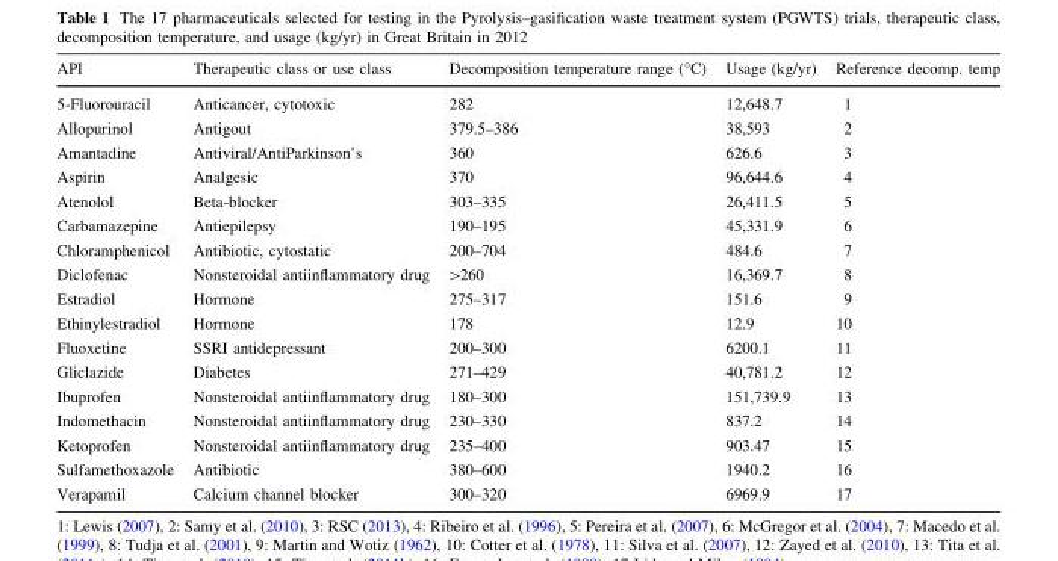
<table><thead><tr><td>API</td><td>Therapeutic class or use class</td><td>Decomposition temperature range (°C)</td><td>Usage (kg/yr)</td><td>Reference decomp. temp</td></tr></thead><tbody><tr><td>5-Fluorouracil</td><td>Anticancer, cytotoxic</td><td>282</td><td>12,648.7</td><td>1</td></tr><tr><td>Allopurinol</td><td>Antigout</td><td>379.5–386</td><td>38,593</td><td>2</td></tr><tr><td>Amantadine</td><td>Antiviral/AntiParkinson’s</td><td>360</td><td>626.6</td><td>3</td></tr><tr><td>Aspirin</td><td>Analgesic</td><td>370</td><td>96,644.6</td><td>4</td></tr><tr><td>Atenolol</td><td>Beta-blocker</td><td>303–335</td><td>26,411.5</td><td>5</td></tr><tr><td>Carbamazepine</td><td>Antiepilepsy</td><td>190–195</td><td>45,331.9</td><td>6</td></tr><tr><td>Chloramphenicol</td><td>Antibiotic, cytostatic</td><td>200–704</td><td>484.6</td><td>7</td></tr><tr><td>Diclofenac</td><td>Nonsteroidal antiinflammatory drug</td><td>&gt;260</td><td>16,369.7</td><td>8</td></tr><tr><td>Estradiol</td><td>Hormone</td><td>275–317</td><td>151.6</td><td>9</td></tr><tr><td>Ethinylestradiol</td><td>Hormone</td><td>178</td><td>12.9</td><td>10</td></tr><tr><td>Fluoxetine</td><td>SSRI antidepressant</td><td>200–300</td><td>6200.1</td><td>11</td></tr><tr><td>Gliclazide</td><td>Diabetes</td><td>271–429</td><td>40,781.2</td><td>12</td></tr><tr><td>Ibuprofen</td><td>Nonsteroidal antiinflammatory drug</td><td>180–300</td><td>151,739.9</td><td>13</td></tr><tr><td>Indomethacin</td><td>Nonsteroidal antiinflammatory drug</td><td>230–330</td><td>837.2</td><td>14</td></tr><tr><td>Ketoprofen</td><td>Nonsteroidal antiinflammatory drug</td><td>235–400</td><td>903.47</td><td>15</td></tr><tr><td>Sulfamethoxazole</td><td>Antibiotic</td><td>380–600</td><td>1940.2</td><td>16</td></tr><tr><td>Verapamil</td><td>Calcium channel blocker</td><td>300–320</td><td>6969.9</td><td>17</td></tr></tbody></table>